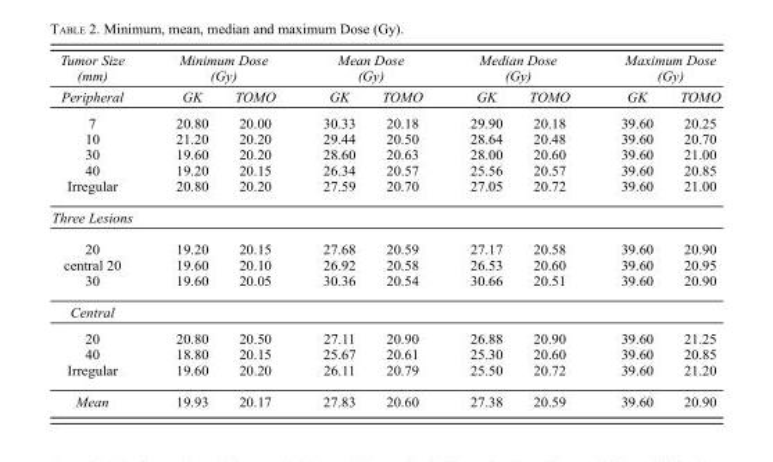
<table><thead><tr><td rowspan="2">Tumor Size (mm) Peripheral</td><td colspan="2">Minimum Dose (Gy)</td><td colspan="2">Mean Dose (Gy)</td><td colspan="2">Median Dose (Gy)</td><td colspan="2">Maximum Dose (Gy)</td></tr><tr><td>GK</td><td>TOMO</td><td>GK</td><td>TOMO</td><td>GK</td><td>TOMO</td><td>GK</td><td>TOMO</td></tr></thead><tbody><tr><td>7</td><td>20.80</td><td>20.00</td><td>30.33</td><td>20.18</td><td>29.90</td><td>20.18</td><td>39.60</td><td>20.25</td></tr><tr><td>10</td><td>21.20</td><td>20.20</td><td>29.44</td><td>20.50</td><td>28.64</td><td>20.48</td><td>39.60</td><td>20.70</td></tr><tr><td>30</td><td>19.60</td><td>20.20</td><td>28.60</td><td>20.63</td><td>28.00</td><td>20.60</td><td>39.60</td><td>21.00</td></tr><tr><td>40</td><td>19.20</td><td>20.15</td><td>26.34</td><td>20.57</td><td>25.56</td><td>20.57</td><td>39.60</td><td>20.85</td></tr><tr><td>Irregular</td><td>20.80</td><td>20.20</td><td>27.59</td><td>20.70</td><td>27.05</td><td>20.72</td><td>39.60</td><td>21.00</td></tr><tr><td colspan="9">Three Lesions</td></tr><tr><td>20</td><td>19.20</td><td>20.15</td><td>27.68</td><td>20.59</td><td>27.17</td><td>20.58</td><td>39.60</td><td>20.90</td></tr><tr><td>central 20</td><td>19.60</td><td>20.10</td><td>26.92</td><td>20.58</td><td>26.53</td><td>20.60</td><td>39.60</td><td>20.95</td></tr><tr><td>30</td><td>19.60</td><td>20.05</td><td>30.36</td><td>20.54</td><td>30.66</td><td>20.51</td><td>39.60</td><td>20.90</td></tr><tr><td colspan="9">Central</td></tr><tr><td>20</td><td>20.80</td><td>20.50</td><td>27.11</td><td>20.90</td><td>26.88</td><td>20.90</td><td>39.60</td><td>21.25</td></tr><tr><td>40</td><td>18.80</td><td>20.15</td><td>25.67</td><td>20.61</td><td>25.30</td><td>20.60</td><td>39.60</td><td>20.85</td></tr><tr><td>Irregular</td><td>19.60</td><td>20.20</td><td>26.11</td><td>20.79</td><td>25.50</td><td>20.72</td><td>39.60</td><td>21.20</td></tr><tr><td>Mean</td><td>19.93</td><td>20.17</td><td>27.83</td><td>20.60</td><td>27.38</td><td>20.59</td><td>39.60</td><td>20.90</td></tr></tbody></table>